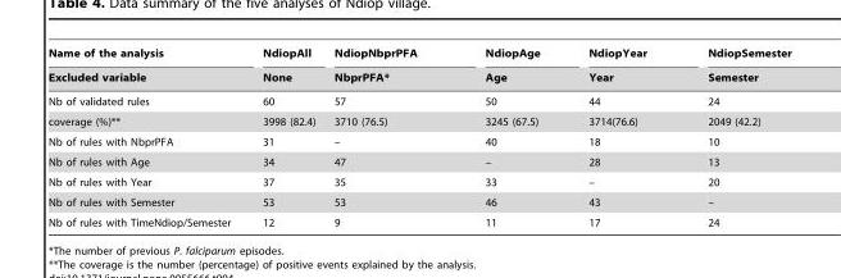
<table><thead><tr><td rowspan="2">Name of the analysis Excluded variable</td><td rowspan="2">NdiopAll None</td><td rowspan="2">NdiopNbprPFA NbprPFA*</td><td rowspan="2">NdiopAge Age</td><td rowspan="2">NdiopYear Year</td><td rowspan="2">NdiopSemester Semester</td></tr><tr></tr></thead><tbody><tr><td>Nb of validated rules</td><td>60</td><td>57</td><td>50</td><td>44</td><td>24</td></tr><tr><td>coverage (%)**</td><td>3998 (82.4)</td><td>3710 (76.5)</td><td>3245 (67.5)</td><td>3714(76.6)</td><td>2049 (42.2)</td></tr><tr><td>Nb of rules with NbprPFA</td><td>31</td><td>–</td><td>40</td><td>18</td><td>10</td></tr><tr><td>Nb of rules with Age</td><td>34</td><td>47</td><td>–</td><td>28</td><td>13</td></tr><tr><td>Nb of rules with Year</td><td>37</td><td>35</td><td>33</td><td>–</td><td>20</td></tr><tr><td>Nb of rules with Semester</td><td>53</td><td>53</td><td>46</td><td>43</td><td>–</td></tr><tr><td>Nb of rules with TimeNdiop/Semester</td><td>12</td><td>9</td><td>11</td><td>17</td><td>24</td></tr></tbody></table>